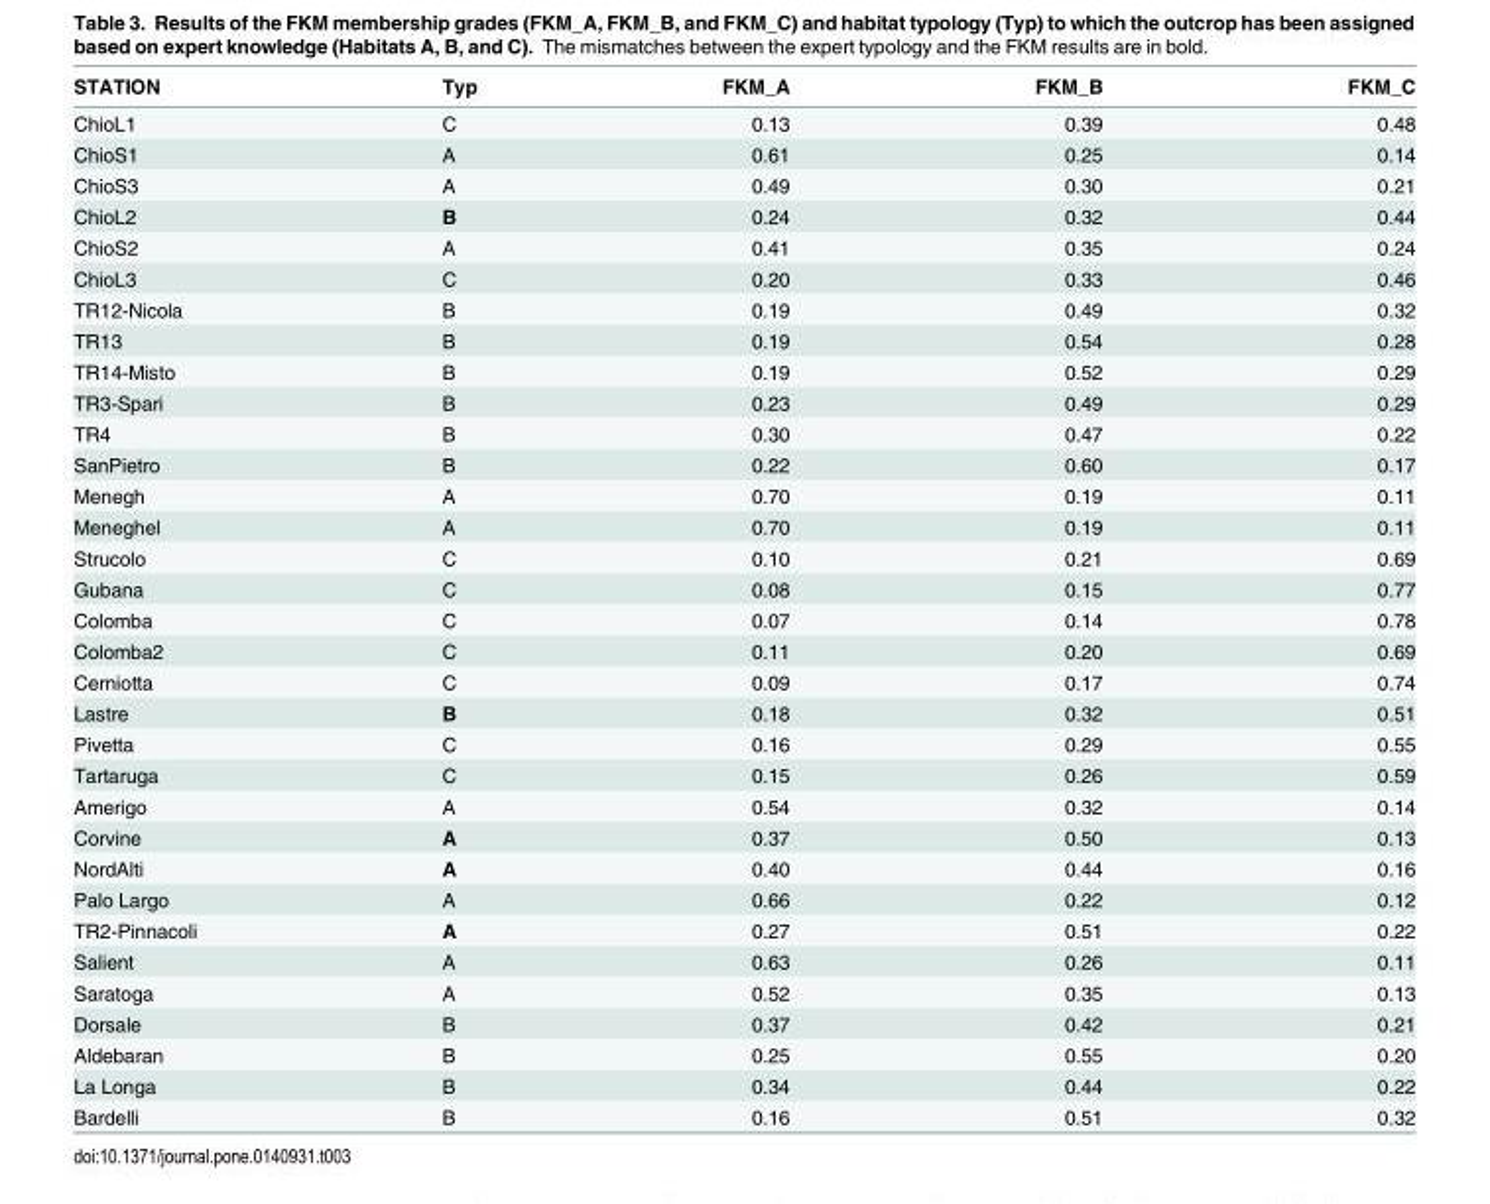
<table><thead><tr><td>STATION</td><td>Typ</td><td>FKM_A</td><td>FKM_B</td><td>FKM_C</td></tr></thead><tbody><tr><td>ChioL1</td><td>C</td><td>0.13</td><td>0.39</td><td>0.48</td></tr><tr><td>ChioS1</td><td>A</td><td>0.61</td><td>0.25</td><td>0.14</td></tr><tr><td>ChioS3</td><td>A</td><td>0.49</td><td>0.30</td><td>0.21</td></tr><tr><td>ChioL2</td><td>B</td><td>0.24</td><td>0.32</td><td>0.44</td></tr><tr><td>ChioS2</td><td>A</td><td>0.41</td><td>0.35</td><td>0.24</td></tr><tr><td>ChioL3</td><td>C</td><td>0.20</td><td>0.33</td><td>0.46</td></tr><tr><td>TR12-Nicola</td><td>B</td><td>0.19</td><td>0.49</td><td>0.32</td></tr><tr><td>TR13</td><td>B</td><td>0.19</td><td>0.54</td><td>0.28</td></tr><tr><td>TR14-Misto</td><td>B</td><td>0.19</td><td>0.52</td><td>0.29</td></tr><tr><td>TR3-Spari</td><td>B</td><td>0.23</td><td>0.49</td><td>0.29</td></tr><tr><td>TR4</td><td>B</td><td>0.30</td><td>0.47</td><td>0.22</td></tr><tr><td>SanPietro</td><td>B</td><td>0.22</td><td>0.60</td><td>0.17</td></tr><tr><td>Menegh</td><td>A</td><td>0.70</td><td>0.19</td><td>0.11</td></tr><tr><td>Meneghel</td><td>A</td><td>0.70</td><td>0.19</td><td>0.11</td></tr><tr><td>Strucolo</td><td>C</td><td>0.10</td><td>0.21</td><td>0.69</td></tr><tr><td>Gubana</td><td>C</td><td>0.08</td><td>0.15</td><td>0.77</td></tr><tr><td>Colomba</td><td>C</td><td>0.07</td><td>0.14</td><td>0.78</td></tr><tr><td>Colomba2</td><td>C</td><td>0.11</td><td>0.20</td><td>0.69</td></tr><tr><td>Cerniotta</td><td>C</td><td>0.09</td><td>0.17</td><td>0.74</td></tr><tr><td>Lastre</td><td>B</td><td>0.18</td><td>0.32</td><td>0.51</td></tr><tr><td>Pivetta</td><td>C</td><td>0.16</td><td>0.29</td><td>0.55</td></tr><tr><td>Tartaruga</td><td>C</td><td>0.15</td><td>0.26</td><td>0.59</td></tr><tr><td>Amerigo</td><td>A</td><td>0.54</td><td>0.32</td><td>0.14</td></tr><tr><td>Corvine</td><td>A</td><td>0.37</td><td>0.50</td><td>0.13</td></tr><tr><td>NordAlti</td><td>A</td><td>0.40</td><td>0.44</td><td>0.16</td></tr><tr><td>Palo Largo</td><td>A</td><td>0.66</td><td>0.22</td><td>0.12</td></tr><tr><td>TR2-Pinnacoli</td><td>A</td><td>0.27</td><td>0.51</td><td>0.22</td></tr><tr><td>Salient</td><td>A</td><td>0.63</td><td>0.26</td><td>0.11</td></tr><tr><td>Saratoga</td><td>A</td><td>0.52</td><td>0.35</td><td>0.13</td></tr><tr><td>Dorsale</td><td>B</td><td>0.37</td><td>0.42</td><td>0.21</td></tr><tr><td>Aldebaran</td><td>B</td><td>0.25</td><td>0.55</td><td>0.20</td></tr><tr><td>La Longa</td><td>B</td><td>0.34</td><td>0.44</td><td>0.22</td></tr><tr><td>Bardelli</td><td>B</td><td>0.16</td><td>0.51</td><td>0.32</td></tr></tbody></table>